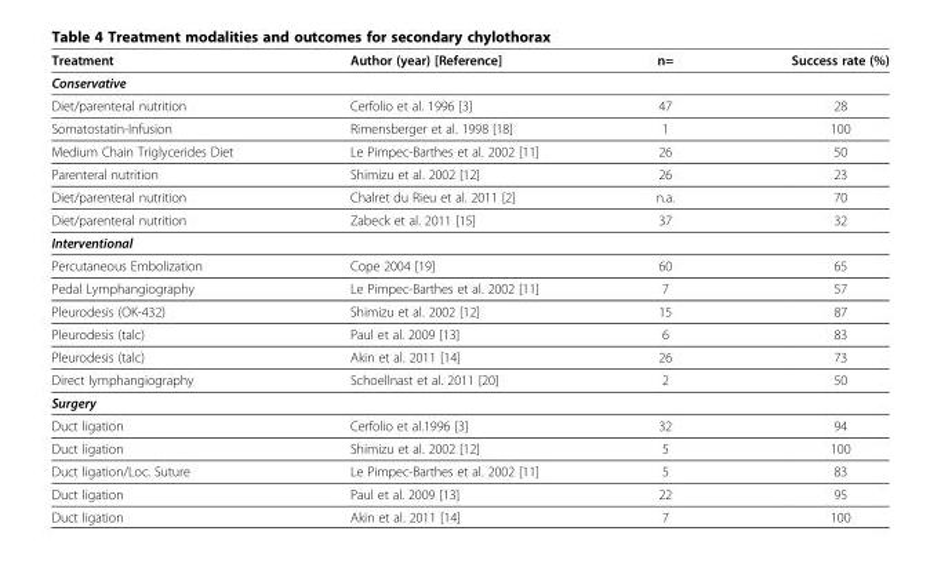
<table><thead><tr><td>Treatment</td><td>Author (year) [Reference]</td><td>n=</td><td>Success rate (%)</td></tr></thead><tbody><tr><td colspan="4">Conservative</td></tr><tr><td>Diet/parenteral nutrition</td><td>Cerfolio et al. 1996 [3]</td><td>47</td><td>28</td></tr><tr><td>Somatostatin-Infusion</td><td>Rimensberger et al. 1998 [18]</td><td>1</td><td>100</td></tr><tr><td>Medium Chain Triglycerides Diet</td><td>Le Pimpec-Barthes et al. 2002 [11]</td><td>26</td><td>50</td></tr><tr><td>Parenteral nutrition</td><td>Shimizu et al. 2002 [12]</td><td>26</td><td>23</td></tr><tr><td>Diet/parenteral nutrition</td><td>Chalret du Rieu et al. 2011 [2]</td><td>n.a.</td><td>70</td></tr><tr><td>Diet/parenteral nutrition</td><td>Zabeck et al. 2011 [15]</td><td>37</td><td>32</td></tr><tr><td colspan="4">Interventional</td></tr><tr><td>Percutaneous Embolization</td><td>Cope 2004 [19]</td><td>60</td><td>65</td></tr><tr><td>Pedal Lymphangiography</td><td>Le Pimpec-Barthes et al. 2002 [11]</td><td>7</td><td>57</td></tr><tr><td>Pleurodesis (OK-432)</td><td>Shimizu et al. 2002 [12]</td><td>15</td><td>87</td></tr><tr><td>Pleurodesis (talc)</td><td>Paul et al. 2009 [13]</td><td>6</td><td>83</td></tr><tr><td>Pleurodesis (talc)</td><td>Akin et al. 2011 [14]</td><td>26</td><td>73</td></tr><tr><td>Direct lymphangiography</td><td>Schoellnast et al. 2011 [20]</td><td>2</td><td>50</td></tr><tr><td colspan="4">Surgery</td></tr><tr><td>Duct ligation</td><td>Cerfolio et al.1996 [3]</td><td>32</td><td>94</td></tr><tr><td>Duct ligation</td><td>Shimizu et al. 2002 [12]</td><td>5</td><td>100</td></tr><tr><td>Duct ligation/Loc. Suture</td><td>Le Pimpec-Barthes et al. 2002 [11]</td><td>5</td><td>83</td></tr><tr><td>Duct ligation</td><td>Paul et al. 2009 [13]</td><td>22</td><td>95</td></tr><tr><td>Duct ligation</td><td>Akin et al. 2011 [14]</td><td>7</td><td>100</td></tr></tbody></table>